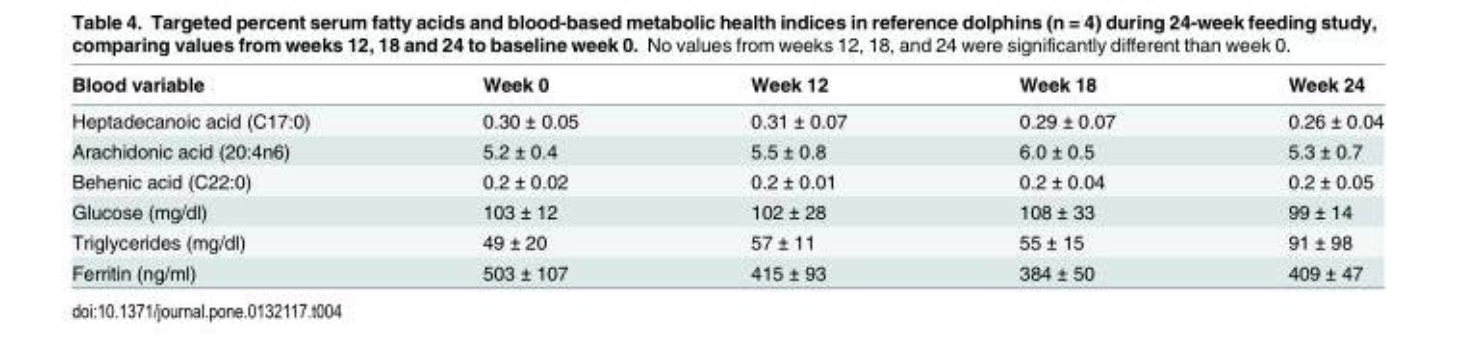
<table><thead><tr><td>Blood variable</td><td>Week 0</td><td>Week 12</td><td>Week 18</td><td>Week 24</td></tr></thead><tbody><tr><td>Heptadecanoic acid (C17:0)</td><td>0.30 ± 0.05</td><td>0.31 ± 0.07</td><td>0.29 ± 0.07</td><td>0.26 ± 0.04</td></tr><tr><td>Arachidonic acid (20:4n6)</td><td>5.2 ± 0.4</td><td>5.5 ± 0.8</td><td>6.0 ± 0.5</td><td>5.3 ± 0.7</td></tr><tr><td>Behenic acid (C22:0)</td><td>0.2 ± 0.02</td><td>0.2 ± 0.01</td><td>0.2 ± 0.04</td><td>0.2 ± 0.05</td></tr><tr><td>Glucose (mg/dl)</td><td>103 ± 12</td><td>102 ± 28</td><td>108 ± 33</td><td>99 ± 14</td></tr><tr><td>Triglycerides (mg/dl)</td><td>49 ± 20</td><td>57 ± 11</td><td>55 ± 15</td><td>91 ± 98</td></tr><tr><td>Ferritin (ng/ml)</td><td>503 ± 107</td><td>415 ± 93</td><td>384 ± 50</td><td>409 ± 47</td></tr></tbody></table>